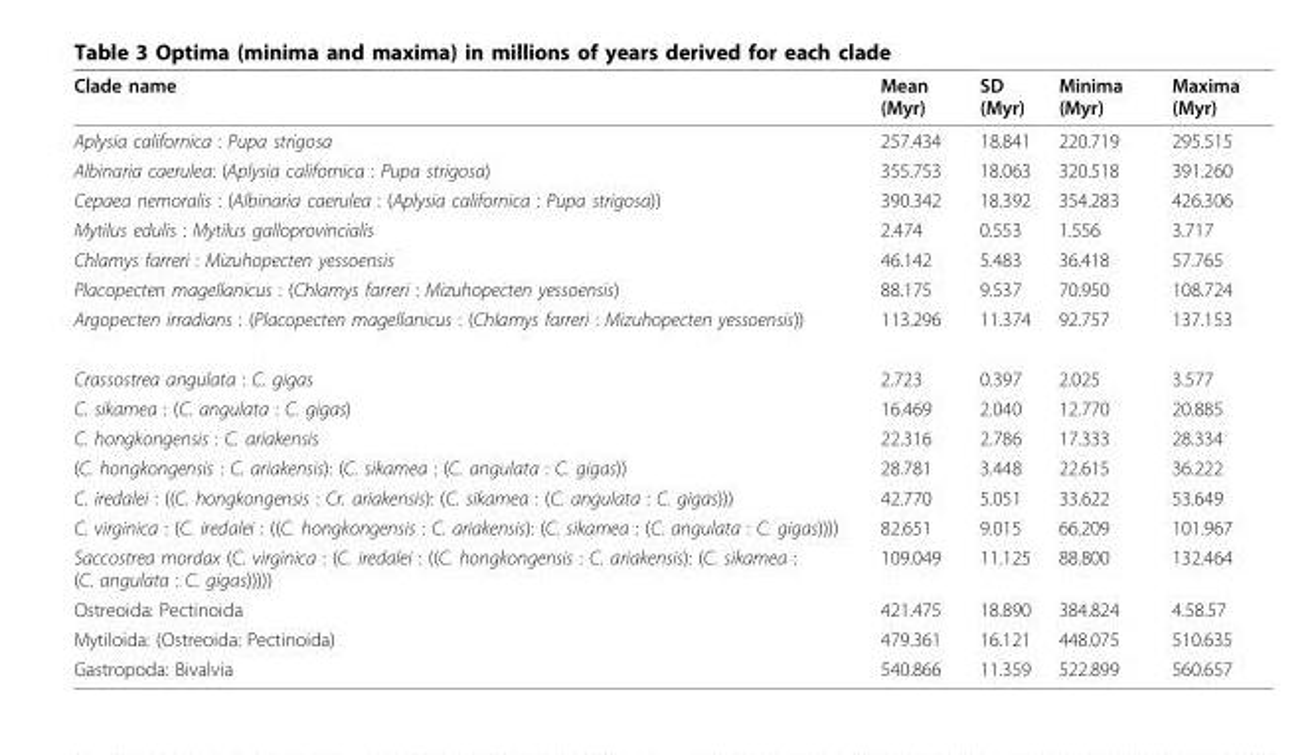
<table><thead><tr><td>Clade name</td><td>Mean (Myr)</td><td>SD (Myr)</td><td>Minima (Myr)</td><td>Maxima (Myr)</td></tr></thead><tbody><tr><td>Aplysia californica : Pupa strigosa</td><td>257.434</td><td>18.841</td><td>220.719</td><td>295.515</td></tr><tr><td>Albinaria caerulea: (Aplysia californica : Pupa strigosa)</td><td>355.753</td><td>18.063</td><td>320.518</td><td>391.260</td></tr><tr><td>Cepaea nemoralis : (Albinaria caerulea : (Aplysia californica : Pupa strigosa))</td><td>390.342</td><td>18.392</td><td>354.283</td><td>426.306</td></tr><tr><td>Mytilus edulis : Mytilus galloprovincialis</td><td>2.474</td><td>0.553</td><td>1.556</td><td>3.717</td></tr><tr><td>Chlamys farreri : Mizuhopecten yessoensis</td><td>46.142</td><td>5.483</td><td>36.418</td><td>57.765</td></tr><tr><td>Placopecten magellanicus : (Chlamys farreri : Mizuhopecten yessoensis)</td><td>88.175</td><td>9.537</td><td>70.950</td><td>108.724</td></tr><tr><td>Argopecten irradians : (Placopecten magellanicus : (Chlamys farreri : Mizuhopecten yessoensis))</td><td>113.296</td><td>11.374</td><td>92.757</td><td>137.153</td></tr><tr><td>Crassostrea angulata : C. gigas</td><td>2.723</td><td>0.397</td><td>2.025</td><td>3.577</td></tr><tr><td>C. sikamea : (C. angulata : C. gigas)</td><td>16.469</td><td>2.040</td><td>12.770</td><td>20.885</td></tr><tr><td>C. hongkongensis : C. ariakensis</td><td>22.316</td><td>2.786</td><td>17.333</td><td>28.334</td></tr><tr><td>(C. hongkongensis : C. ariakensis): (C. sikamea : (C. angulata : C. gigas))</td><td>28.781</td><td>3.448</td><td>22.615</td><td>36.222</td></tr><tr><td>C. iredalei : ((C. hongkongensis : Cr. ariakensis): (C. sikamea : (C. angulata : C. gigas)))</td><td>42.770</td><td>5.051</td><td>33.622</td><td>53.649</td></tr><tr><td>C. virginica : (C. iredalei : ((C. hongkongensis : C. ariakensis): (C. sikamea : (C. angulata : C. gigas))))</td><td>82.651</td><td>9.015</td><td>66.209</td><td>101.967</td></tr><tr><td>Saccostrea mordax (C. virginica : (C. iredalei : ((C. hongkongensis : C. ariakensis): (C. sikamea : (C. angulata : C. gigas)))))</td><td>109.049</td><td>11.125</td><td>88.800</td><td>132.464</td></tr><tr><td>Ostreoida: Pectinoida</td><td>421.475</td><td>18.890</td><td>384.824</td><td>4.58.57</td></tr><tr><td>Mytiloida: (Ostreoida: Pectinoida)</td><td>479.361</td><td>16.121</td><td>448.075</td><td>510.635</td></tr><tr><td>Gastropoda: Bivalvia</td><td>540.866</td><td>11.359</td><td>522.899</td><td>560.657</td></tr></tbody></table>